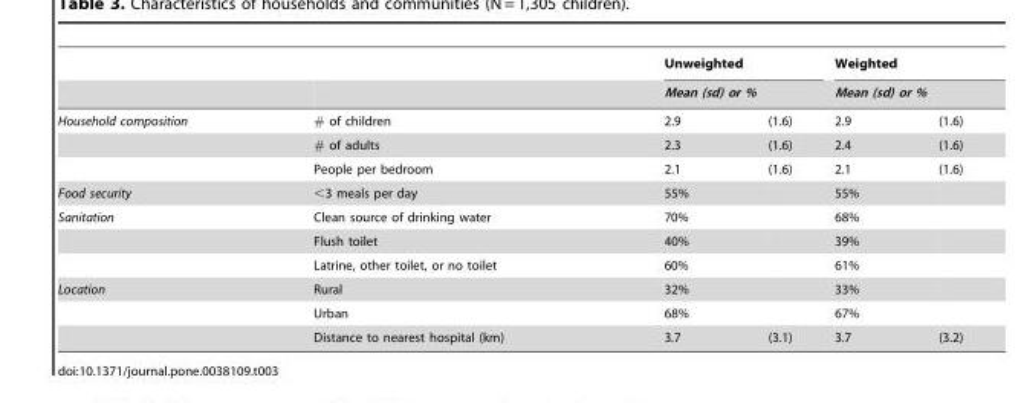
<table><thead><tr><td rowspan="3">Household composition</td><td rowspan="3"># of children</td><td rowspan="2" colspan="2">Unweighted Mean (sd) or %</td><td rowspan="2" colspan="2">Weighted Mean (sd) or %</td></tr><tr></tr><tr><td>2.9</td><td>(1.6)</td><td>2.9</td><td>(1.6)</td></tr></thead><tbody><tr><td></td><td># of adults</td><td>2.3</td><td>(1.6)</td><td>2.4</td><td>(1.6)</td></tr><tr><td></td><td>People per bedroom</td><td>2.1</td><td>(1.6)</td><td>2.1</td><td>(1.6)</td></tr><tr><td>Food security</td><td>&lt;3 meals per day</td><td>55%</td><td></td><td>55%</td><td></td></tr><tr><td rowspan="3">Sanitation</td><td>Clean source of drinking water</td><td>70%</td><td></td><td>68%</td><td></td></tr><tr><td>Flush toilet</td><td>40%</td><td></td><td>39%</td><td></td></tr><tr><td>Latrine, other toilet, or no toilet</td><td>60%</td><td></td><td>61%</td><td></td></tr><tr><td rowspan="3">Location</td><td>Rural</td><td>32%</td><td></td><td>33%</td><td></td></tr><tr><td>Urban</td><td>68%</td><td></td><td>67%</td><td></td></tr><tr><td>Distance to nearest hospital (km)</td><td>3.7</td><td>(3.1)</td><td>3.7</td><td>(3.2)</td></tr></tbody></table>